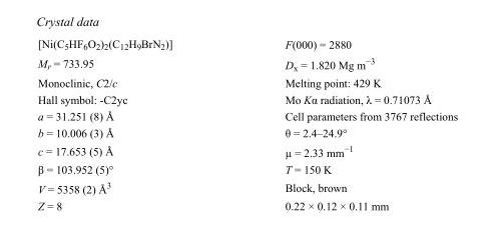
<table><tbody><tr><td>[Ni(C<sub>5</sub>HF<sub>6</sub>O<sub>2</sub>)<sub>2</sub>(C<sub>12</sub>H<sub>9</sub>BrN<sub>2</sub>)]</td><td>F(000) = 2880</td></tr><tr><td>M<sub>r</sub> = 733.95</td><td>D<sub>x</sub> = 1.820 Mg m<sup>−3</sup></td></tr><tr><td>Monoclinic, C2/c</td><td>Melting point: 429 K</td></tr><tr><td>Hall symbol: -C2yc</td><td>Mo Kα radiation, λ = 0.71073 Å</td></tr><tr><td>a = 31.251 (8) Å</td><td>Cell parameters from 3767 reflections</td></tr><tr><td>b = 10.006 (3) Å</td><td>θ = 2.4–24.9°</td></tr><tr><td>c = 17.653 (5) Å</td><td>µ = 2.33 mm<sup>−1</sup></td></tr><tr><td>β = 103.952 (5)°</td><td>T = 150 K</td></tr><tr><td>V = 5358 (2) Å<sup>3</sup></td><td>Block, brown</td></tr><tr><td>Z = 8</td><td>0.22 × 0.12 × 0.11 mm</td></tr></tbody></table>